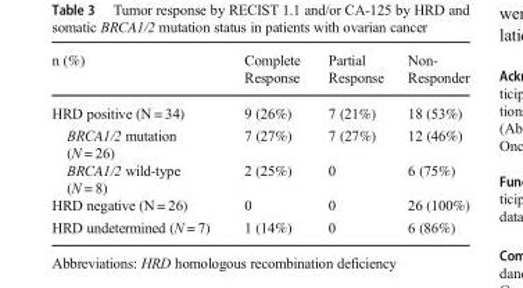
<table><thead><tr><td>n (%)</td><td>Complete Response</td><td>Partial Response</td><td>Non- Responder</td></tr></thead><tbody><tr><td>HRD positive (N = 34)</td><td>9 (26%)</td><td>7 (21%)</td><td>18 (53%)</td></tr><tr><td>BRCA1/2 mutation (N = 26)</td><td>7 (27%)</td><td>7 (27%)</td><td>12 (46%)</td></tr><tr><td>BRCA1/2 wild-type (N = 8)</td><td>2 (25%)</td><td>0</td><td>6 (75%)</td></tr><tr><td>HRD negative (N = 26)</td><td>0</td><td>0</td><td>26 (100%)</td></tr><tr><td>HRD undetermined (N = 7)</td><td>1 (14%)</td><td>0</td><td>6 (86%)</td></tr></tbody></table>